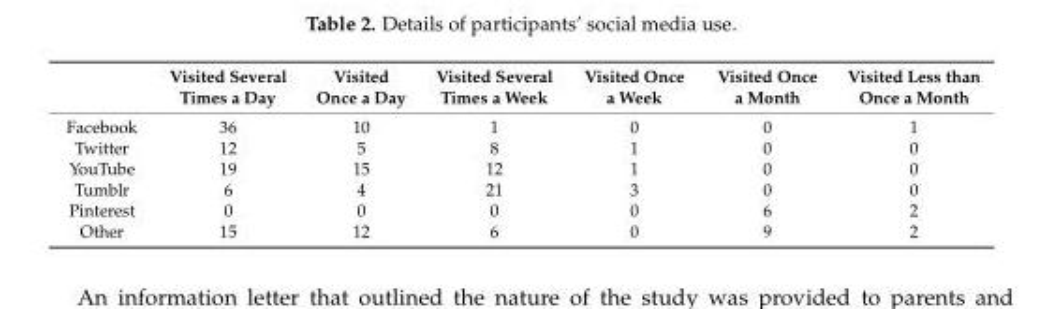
<table><thead><tr><td></td><td>Visited Several Times a Day</td><td>Visited Once a Day</td><td>Visited Several Times a Week</td><td>Visited Once a Week</td><td>Visited Once a Month</td><td>Visited Less than Once a Month</td></tr></thead><tbody><tr><td>Facebook</td><td>36</td><td>10</td><td>1</td><td>0</td><td>0</td><td>1</td></tr><tr><td>Twitter</td><td>12</td><td>5</td><td>8</td><td>1</td><td>0</td><td>0</td></tr><tr><td>YouTube</td><td>19</td><td>15</td><td>12</td><td>1</td><td>0</td><td>0</td></tr><tr><td>Tumblr</td><td>6</td><td>4</td><td>21</td><td>3</td><td>0</td><td>0</td></tr><tr><td>Pinterest</td><td>0</td><td>0</td><td>0</td><td>0</td><td>6</td><td>2</td></tr><tr><td>Other</td><td>15</td><td>12</td><td>6</td><td>0</td><td>9</td><td>2</td></tr></tbody></table>